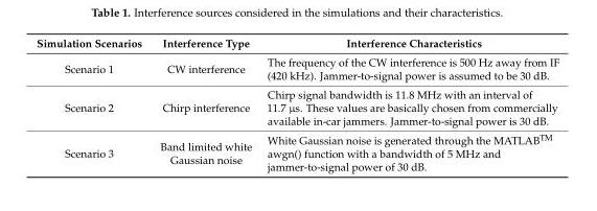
<table><thead><tr><td>Simulation Scenarios</td><td>Interference Type</td><td>Interference Characteristics</td></tr></thead><tbody><tr><td>Scenario 1</td><td>CW interference</td><td>The frequency of the CW interference is 500 Hz away from IF (420 kHz). Jammer-to-signal power is assumed to be 30 dB.</td></tr><tr><td>Scenario 2</td><td>Chirp interference</td><td>Chirp signal bandwidth is 11.8 MHz with an interval of 11.7 µs. These values are basically chosen from commercially available in-car jammers. Jammer-to-signal power is 30 dB.</td></tr><tr><td>Scenario 3</td><td>Band limited white Gaussian noise</td><td>White Gaussian noise is generated through the MATLAB<sup>TM</sup> awgn() function with a bandwidth of 5 MHz and jammer-to-signal power of 30 dB.</td></tr></tbody></table>